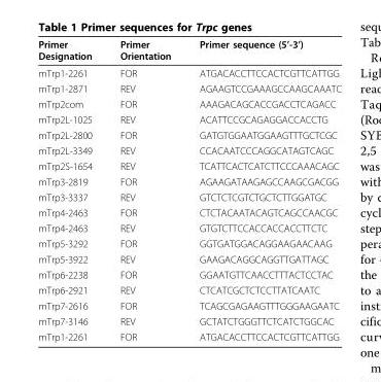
<table><thead><tr><td>Primer Designation</td><td>Primer Orientation</td><td>Primer sequence (5’-3’)</td></tr></thead><tbody><tr><td>mTrp1-2261</td><td>FOR</td><td>ATGACACCTTCCACTCGTTCATTGG</td></tr><tr><td>mTrp1-2871</td><td>REV</td><td>AGAAGTCCGAAAGCCAAGCAAATC</td></tr><tr><td>mTrp2com</td><td>FOR</td><td>AAAGACAGCACCGACCTCAGACC</td></tr><tr><td>mTrp2L-1025</td><td>REV</td><td>ACATTCCGCAGAGGACCACCTG</td></tr><tr><td>mTrp2L-2800</td><td>FOR</td><td>GATGTGGAATGGAAGTTTGCTCGC</td></tr><tr><td>mTrp2L-3349</td><td>REV</td><td>CCACAATCCCAGGCATAGTCAGC</td></tr><tr><td>mTrp2S-1654</td><td>REV</td><td>TCATTCACTCATCTTCCCAAACAGC</td></tr><tr><td>mTrp3-2819</td><td>FOR</td><td>AGAAGATAAGAGCCAAGCGACGG</td></tr><tr><td>mTrp3-3337</td><td>REV</td><td>GTCTCTCGTCTGCTCTTGGATGC</td></tr><tr><td>mTrp4-2463</td><td>FOR</td><td>CTCTACAATACAGTCAGCCAACGC</td></tr><tr><td>mTrp4-2463</td><td>REV</td><td>GTGTCTTCCACCACCACCTTCTC</td></tr><tr><td>mTrp5-3292</td><td>FOR</td><td>GGTGATGGACAGGAAGAACAAG</td></tr><tr><td>mTrp5-3922</td><td>REV</td><td>GAAGACAGGCAGGTTGATTAGC</td></tr><tr><td>mTrp6-2238</td><td>FOR</td><td>GGAATGTTCAACCTTTACTCCTAC</td></tr><tr><td>mTrp6-2921</td><td>REV</td><td>CTCATCGCTCTCCTTATCAATC</td></tr><tr><td>mTrp7-2616</td><td>FOR</td><td>TCAGCGAGAAGTTTGGGAAGAATC</td></tr><tr><td>mTrp7-3146</td><td>REV</td><td>GCTATCTGGGTTCTCATCTGGCAC</td></tr><tr><td>mTrp1-2261</td><td>FOR</td><td>ATGACACCTTCCACTCGTTCATTGG</td></tr></tbody></table>